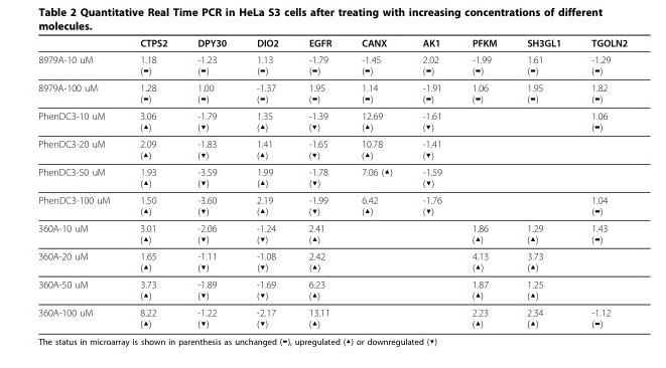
<table><thead><tr><td></td><td>CTPS2</td><td>DPY30</td><td>DIO2</td><td>EGFR</td><td>CANX</td><td>AK1</td><td>PFKM</td><td>SH3GL1</td><td>TGOLN2</td></tr></thead><tbody><tr><td>8979A-10 uM</td><td>1.18 (▬)</td><td>-1.23 (▬)</td><td>1.13 (▬)</td><td>-1.79 (▬)</td><td>-1.45 (▬)</td><td>2.02 (▬)</td><td>-1.99 (▬)</td><td>1.61 (▬)</td><td>-1.29 (▬)</td></tr><tr><td>8979A-100 uM</td><td>1.28 (▬)</td><td>1.00 (▬)</td><td>-1.37 (▬)</td><td>1.95 (▬)</td><td>1.14 (▬)</td><td>-1.91 (▬)</td><td>1.06 (▬)</td><td>1.95 (▬)</td><td>1.82 (▬)</td></tr><tr><td>PhenDC3-10 uM</td><td>3.06 (▲)</td><td>-1.79 (▼)</td><td>1.35 (▲)</td><td>-1.39 (▼)</td><td>12.69 (▲)</td><td>-1.61 (▼)</td><td></td><td></td><td>1.06 (▬)</td></tr><tr><td>PhenDC3-20 uM</td><td>2.09 (▲)</td><td>-1.83 (▼)</td><td>1.41 (▲)</td><td>-1.65 (▼)</td><td>10.78 (▲)</td><td>-1.41 (▼)</td><td></td><td></td><td></td></tr><tr><td>PhenDC3-50 uM</td><td>1.93 (▲)</td><td>-3.59 (▼)</td><td>1.99 (▲)</td><td>-1.78 (▼)</td><td>7.06 (▲)</td><td>-1.59 (▼)</td><td></td><td></td><td></td></tr><tr><td>PhenDC3-100 uM</td><td>1.50 (▲)</td><td>-3.60 (▼)</td><td>2.19 (▲)</td><td>-1.99 (▼)</td><td>6.42 (▲)</td><td>-1.76 (▼)</td><td></td><td></td><td>1.04 (▬)</td></tr><tr><td>360A-10 uM</td><td>3.01 (▲)</td><td>-2.06 (▼)</td><td>-1.24 (▼)</td><td>2.41 (▲)</td><td></td><td></td><td>1.86 (▲)</td><td>1.29 (▲)</td><td>1.43 (▬)</td></tr><tr><td>360A-20 uM</td><td>1.65 (▲)</td><td>-1.11 (▼)</td><td>-1.08 (▼)</td><td>2.42 (▲)</td><td></td><td></td><td>4.13 (▲)</td><td>3.73 (▲)</td><td></td></tr><tr><td>360A-50 uM</td><td>3.73 (▲)</td><td>-1.89 (▼)</td><td>-1.69 (▼)</td><td>6.23 (▲)</td><td></td><td></td><td>1.87 (▲)</td><td>1.25 (▲)</td><td></td></tr><tr><td>360A-100 uM</td><td>8.22 (▲)</td><td>-1.22 (▼)</td><td>-2.17 (▼)</td><td>13.11 (▲)</td><td></td><td></td><td>2.23 (▲)</td><td>2.34 (▲)</td><td>-1.12 (▬)</td></tr></tbody></table>